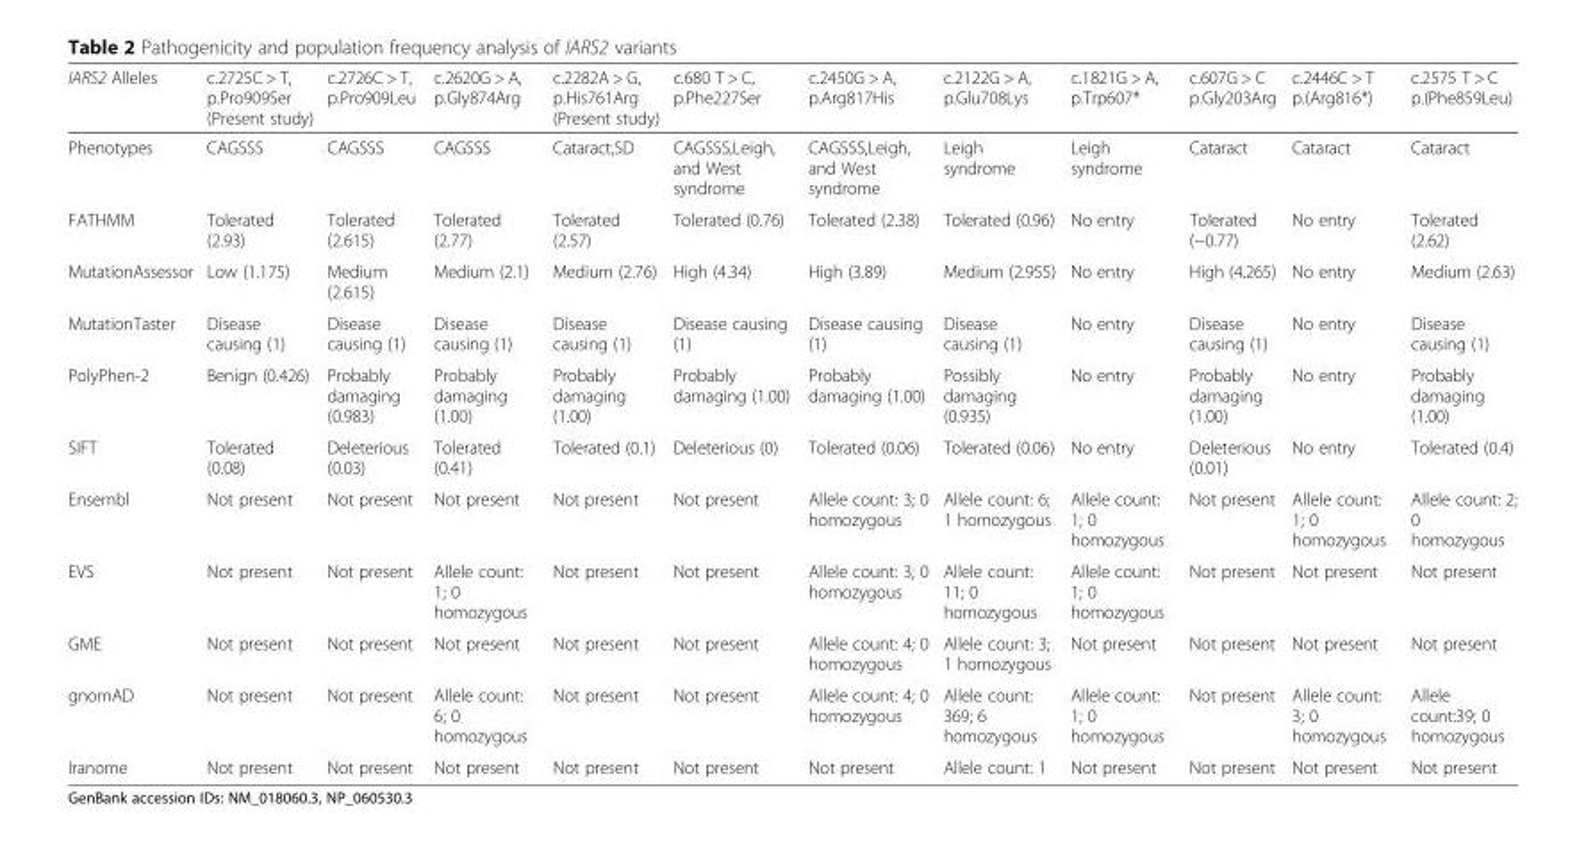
<table><thead><tr><td>IARS2 Alleles</td><td>c.2725C &gt; T, p.Pro909Ser (Present study)</td><td>c.2726C &gt; T, p.Pro909Leu</td><td>c.2620G &gt; A, p.Gly874Arg</td><td>c.2282A &gt; G, p.His761Arg (Present study)</td><td>c.680 T &gt; C, p.Phe227Ser</td><td>c.2450G &gt; A, p.Arg817His</td><td>c.2122G &gt; A, p.Glu708Lys</td><td>c.1821G &gt; A, p.Trp607*</td><td>c.607G &gt; C p.Gly203Arg</td><td>c.2446C &gt; T p.(Arg816*)</td><td>c.2575 T &gt; C p.(Phe859Leu)</td></tr></thead><tbody><tr><td>Phenotypes</td><td>CAGSSS</td><td>CAGSSS</td><td>CAGSSS</td><td>Cataract,SD</td><td>CAGSSS,Leigh, and West syndrome</td><td>CAGSSS,Leigh, and West syndrome</td><td>Leigh syndrome</td><td>Leigh syndrome</td><td>Cataract</td><td>Cataract</td><td>Cataract</td></tr><tr><td>FATHMM</td><td>Tolerated (2.93)</td><td>Tolerated (2.615)</td><td>Tolerated (2.77)</td><td>Tolerated (2.57)</td><td>Tolerated (0.76)</td><td>Tolerated (2.38)</td><td>Tolerated (0.96)</td><td>No entry</td><td>Tolerated (−0.77)</td><td>No entry</td><td>Tolerated (2.62)</td></tr><tr><td>MutationAssessor</td><td>Low (1.175)</td><td>Medium (2.615)</td><td>Medium (2.1)</td><td>Medium (2.76)</td><td>High (4.34)</td><td>High (3.89)</td><td>Medium (2.955)</td><td>No entry</td><td>High (4.265)</td><td>No entry</td><td>Medium (2.63)</td></tr><tr><td>MutationTaster</td><td>Disease causing (1)</td><td>Disease causing (1)</td><td>Disease causing (1)</td><td>Disease causing (1)</td><td>Disease causing (1)</td><td>Disease causing (1)</td><td>Disease causing (1)</td><td>No entry</td><td>Disease causing (1)</td><td>No entry</td><td>Disease causing (1)</td></tr><tr><td>PolyPhen-2</td><td>Benign (0.426)</td><td>Probably damaging (0.983)</td><td>Probably damaging (1.00)</td><td>Probably damaging (1.00)</td><td>Probably damaging (1.00)</td><td>Probably damaging (1.00)</td><td>Possibly damaging (0.935)</td><td>No entry</td><td>Probably damaging (1.00)</td><td>No entry</td><td>Probably damaging (1.00)</td></tr><tr><td>SIFT</td><td>Tolerated (0.08)</td><td>Deleterious (0.03)</td><td>Tolerated (0.41)</td><td>Tolerated (0.1)</td><td>Deleterious (0)</td><td>Tolerated (0.06)</td><td>Tolerated (0.06)</td><td>No entry</td><td>Deleterious (0.01)</td><td>No entry</td><td>Tolerated (0.4)</td></tr><tr><td>Ensembl</td><td>Not present</td><td>Not present</td><td>Not present</td><td>Not present</td><td>Not present</td><td>Allele count: 3; 0 homozygous</td><td>Allele count: 6; 1 homozygous</td><td>Allele count: 1; 0 homozygous</td><td>Not present</td><td>Allele count: 1; 0 homozygous</td><td>Allele count: 2; 0 homozygous</td></tr><tr><td>EVS</td><td>Not present</td><td>Not present</td><td>Allele count: 1; 0 homozygous</td><td>Not present</td><td>Not present</td><td>Allele count: 3; 0 homozygous</td><td>Allele count: 11; 0 homozygous</td><td>Allele count: 1; 0 homozygous</td><td>Not present</td><td>Not present</td><td>Not present</td></tr><tr><td>GME</td><td>Not present</td><td>Not present</td><td>Not present</td><td>Not present</td><td>Not present</td><td>Allele count: 4; 0 homozygous</td><td>Allele count: 3; 1 homozygous</td><td>Not present</td><td>Not present</td><td>Not present</td><td>Not present</td></tr><tr><td>gnomAD</td><td>Not present</td><td>Not present</td><td>Allele count: 6; 0 homozygous</td><td>Not present</td><td>Not present</td><td>Allele count: 4; 0 homozygous</td><td>Allele count: 369; 6 homozygous</td><td>Allele count: 1; 0 homozygous</td><td>Not present</td><td>Allele count: 3; 0 homozygous</td><td>Allele count:39; 0 homozygous</td></tr><tr><td>Iranome</td><td>Not present</td><td>Not present</td><td>Not present</td><td>Not present</td><td>Not present</td><td>Not present</td><td>Allele count: 1</td><td>Not present</td><td>Not present</td><td>Not present</td><td>Not present</td></tr></tbody></table>